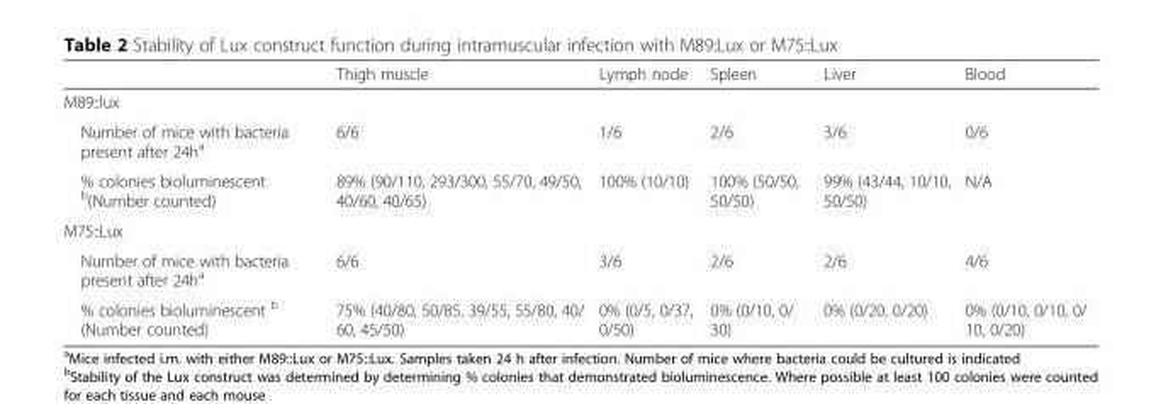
<table><thead><tr><td></td><td>Thigh muscle</td><td>Lymph node</td><td>Spleen</td><td>Liver</td><td>Blood</td></tr></thead><tbody><tr><td colspan="6">M89::lux</td></tr><tr><td>Number of mice with bacteria present after 24h<sup>a</sup></td><td>6/6</td><td>1/6</td><td>2/6</td><td>3/6</td><td>0/6</td></tr><tr><td>% colonies bioluminescent <sup>b</sup>(Number counted)</td><td>89% (90/110, 293/300, 55/70, 49/50, 40/60, 40/65)</td><td>100% (10/10)</td><td>100% (50/50, 50/50)</td><td>99% (43/44, 10/10, 50/50)</td><td>N/A</td></tr><tr><td colspan="6">M75::Lux</td></tr><tr><td>Number of mice with bacteria present after 24h<sup>a</sup></td><td>6/6</td><td>3/6</td><td>2/6</td><td>2/6</td><td>4/6</td></tr><tr><td>% colonies bioluminescent <sup>b</sup> (Number counted)</td><td>75% (40/80, 50/85, 39/55, 55/80, 40/ 60, 45/50)</td><td>0% (0/5, 0/37, 0/50)</td><td>0% (0/10, 0/ 30)</td><td>0% (0/20, 0/20)</td><td>0% (0/10, 0/10, 0/ 10, 0/20)</td></tr></tbody></table>